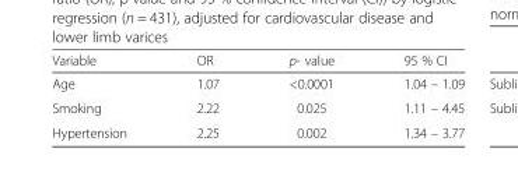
<table><thead><tr><td>Variable</td><td>OR</td><td>p- value</td><td>95 % CI</td></tr></thead><tbody><tr><td>Age</td><td>1.07</td><td>&lt;0.0001</td><td>1.04 – 1.09</td></tr><tr><td>Smoking</td><td>2.22</td><td>0.025</td><td>1.11 – 4.45</td></tr><tr><td>Hypertension</td><td>2.25</td><td>0.002</td><td>1.34 – 3.77</td></tr></tbody></table>